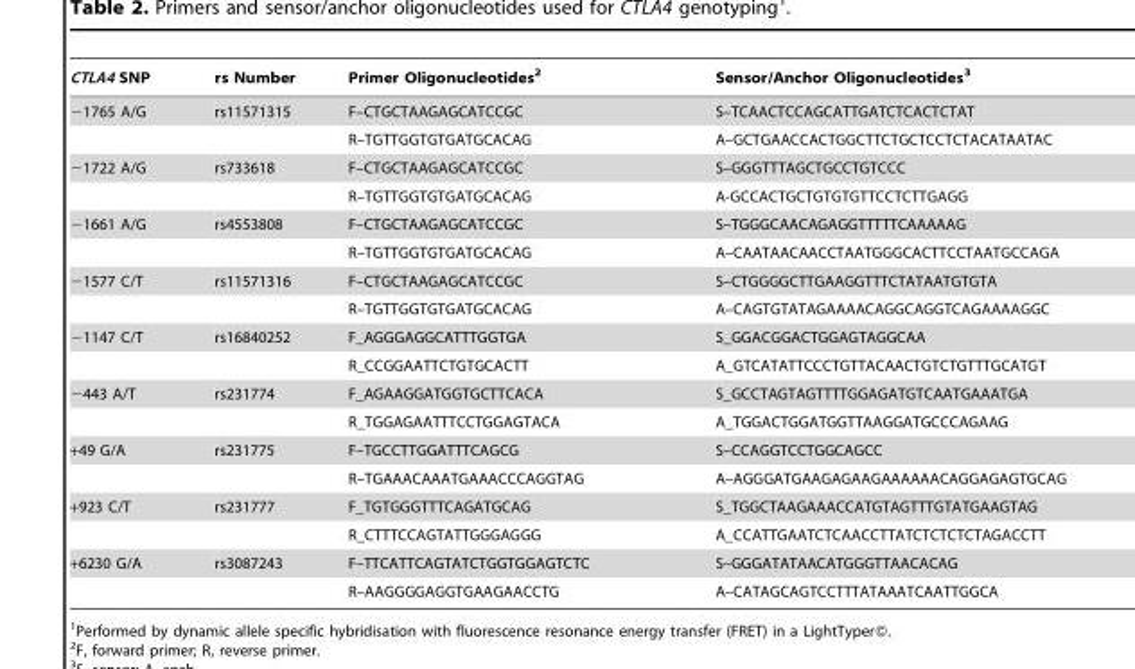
<table><thead><tr><td>CTLA4 SNP</td><td>rs Number</td><td>Primer Oligonucleotides<sup>2</sup></td><td>Sensor/Anchor Oligonucleotides<sup>3</sup></td></tr></thead><tbody><tr><td rowspan="2">−1765 A/G</td><td>rs11571315</td><td>F–CTGCTAAGAGCATCCGC</td><td>S–TCAACTCCAGCATTGATCTCACTCTAT</td></tr><tr><td></td><td>R–TGTTGGTGTGATGCACAG</td><td>A–GCTGAACCACTGGCTTCTGCTCCTCTACATAATAC</td></tr><tr><td rowspan="2">−1722 A/G</td><td>rs733618</td><td>F–CTGCTAAGAGCATCCGC</td><td>S–GGGTTTAGCTGCCTGTCCC</td></tr><tr><td></td><td>R–TGTTGGTGTGATGCACAG</td><td>A-GCCACTGCTGTGTGTTCCTCTTGAGG</td></tr><tr><td rowspan="2">−1661 A/G</td><td>rs4553808</td><td>F–CTGCTAAGAGCATCCGC</td><td>S–TGGGCAACAGAGGTTTTTCAAAAAG</td></tr><tr><td></td><td>R–TGTTGGTGTGATGCACAG</td><td>A–CAATAACAACCTAATGGGCACTTCCTAATGCCAGA</td></tr><tr><td rowspan="2">−1577 C/T</td><td>rs11571316</td><td>F–CTGCTAAGAGCATCCGC</td><td>S–CTGGGGCTTGAAGGTTTCTATAATGTGTA</td></tr><tr><td></td><td>R–TGTTGGTGTGATGCACAG</td><td>A–CAGTGTATAGAAAACAGGCAGGTCAGAAAAGGC</td></tr><tr><td rowspan="2">−1147 C/T</td><td>rs16840252</td><td>F_AGGGAGGCATTTGGTGA</td><td>S_GGACGGACTGGAGTAGGCAA</td></tr><tr><td></td><td>R_CCGGAATTCTGTGCACTT</td><td>A_GTCATATTCCCTGTTACAACTGTCTGTTTGCATGT</td></tr><tr><td rowspan="2">−443 A/T</td><td>rs231774</td><td>F_AGAAGGATGGTGCTTCACA</td><td>S_GCCTAGTAGTTTTGGAGATGTCAATGAAATGA</td></tr><tr><td></td><td>R_TGGAGAATTTCCTGGAGTACA</td><td>A_TGGACTGGATGGTTAAGGATGCCCAGAAG</td></tr><tr><td rowspan="2">+49 G/A</td><td>rs231775</td><td>F–TGCCTTGGATTTCAGCG</td><td>S–CCAGGTCCTGGCAGCC</td></tr><tr><td></td><td>R–TGAAACAAATGAAACCCAGGTAG</td><td>A–AGGGATGAAGAGAAGAAAAAACAGGAGAGTGCAG</td></tr><tr><td rowspan="2">+923 C/T</td><td>rs231777</td><td>F_TGTGGGTTTCAGATGCAG</td><td>S_TGGCTAAGAAACCATGTAGTTTGTATGAAGTAG</td></tr><tr><td></td><td>R_CTTTCCAGTATTGGGAGGG</td><td>A_CCATTGAATCTCAACCTTATCTCTCTCTAGACCTT</td></tr><tr><td rowspan="2">+6230 G/A</td><td>rs3087243</td><td>F–TTCATTCAGTATCTGGTGGAGTCTC</td><td>S–GGGATATAACATGGGTTAACACAG</td></tr><tr><td></td><td>R–AAGGGGAGGTGAAGAACCTG</td><td>A–CATAGCAGTCCTTTATAAATCAATTGGCA</td></tr></tbody></table>